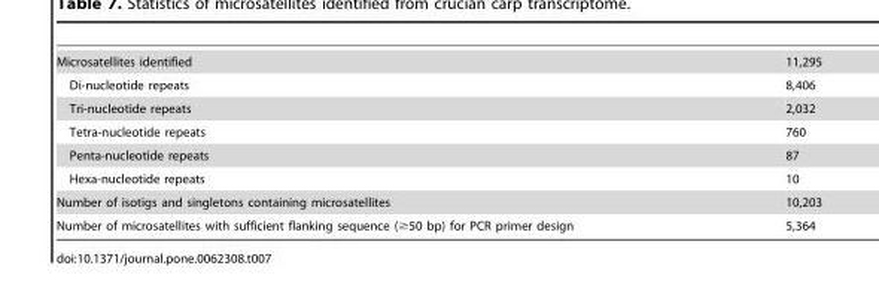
<table><tbody><tr><td>Microsatellites identified</td><td>11,295</td></tr><tr><td>Di-nucleotide repeats</td><td>8,406</td></tr><tr><td>Tri-nucleotide repeats</td><td>2,032</td></tr><tr><td>Tetra-nucleotide repeats</td><td>760</td></tr><tr><td>Penta-nucleotide repeats</td><td>87</td></tr><tr><td>Hexa-nucleotide repeats</td><td>10</td></tr><tr><td>Number of isotigs and singletons containing microsatellites</td><td>10,203</td></tr><tr><td>Number of microsatellites with sufficient flanking sequence (≥50 bp) for PCR primer design</td><td>5,364</td></tr></tbody></table>